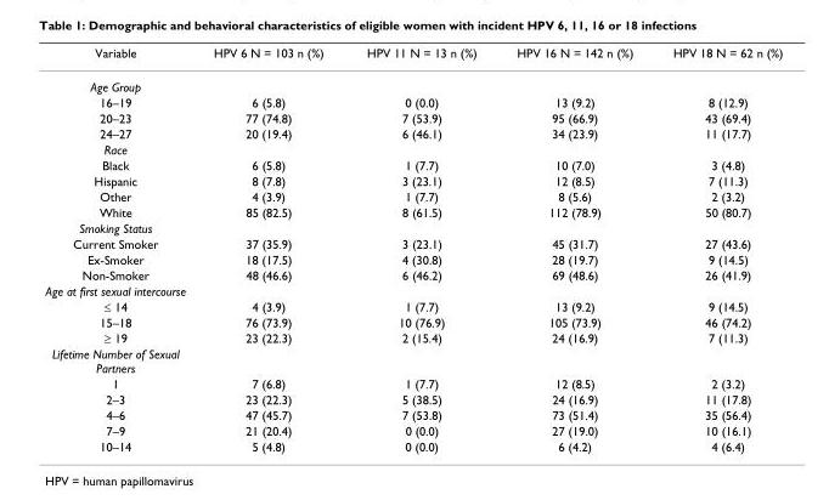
<table><thead><tr><td>Variable</td><td>HPV 6 N = 103 n (%)</td><td>HPV 11 N = 13 n (%)</td><td>HPV 16 N = 142 n (%)</td><td>HPV 18 N = 62 n (%)</td></tr></thead><tbody><tr><td colspan="5">Age Group</td></tr><tr><td>16–19</td><td>6 (5.8)</td><td>0 (0.0)</td><td>13 (9.2)</td><td>8 (12.9)</td></tr><tr><td>20–23</td><td>77 (74.8)</td><td>7 (53.9)</td><td>95 (66.9)</td><td>43 (69.4)</td></tr><tr><td>24–27</td><td>20 (19.4)</td><td>6 (46.1)</td><td>34 (23.9)</td><td>11 (17.7)</td></tr><tr><td colspan="5">Race</td></tr><tr><td>Black</td><td>6 (5.8)</td><td>1 (7.7)</td><td>10 (7.0)</td><td>3 (4.8)</td></tr><tr><td>Hispanic</td><td>8 (7.8)</td><td>3 (23.1)</td><td>12 (8.5)</td><td>7 (11.3)</td></tr><tr><td>Other</td><td>4 (3.9)</td><td>1 (7.7)</td><td>8 (5.6)</td><td>2 (3.2)</td></tr><tr><td>White</td><td>85 (82.5)</td><td>8 (61.5)</td><td>112 (78.9)</td><td>50 (80.7)</td></tr><tr><td colspan="5">Smoking Status</td></tr><tr><td>Current Smoker</td><td>37 (35.9)</td><td>3 (23.1)</td><td>45 (31.7)</td><td>27 (43.6)</td></tr><tr><td>Ex-Smoker</td><td>18 (17.5)</td><td>4 (30.8)</td><td>28 (19.7)</td><td>9 (14.5)</td></tr><tr><td>Non-Smoker</td><td>48 (46.6)</td><td>6 (46.2)</td><td>69 (48.6)</td><td>26 (41.9)</td></tr><tr><td colspan="5">Age at first sexual intercourse</td></tr><tr><td>≤ 14</td><td>4 (3.9)</td><td>1 (7.7)</td><td>13 (9.2)</td><td>9 (14.5)</td></tr><tr><td>15–18</td><td>76 (73.9)</td><td>10 (76.9)</td><td>105 (73.9)</td><td>46 (74.2)</td></tr><tr><td>≥ 19</td><td>23 (22.3)</td><td>2 (15.4)</td><td>24 (16.9)</td><td>7 (11.3)</td></tr><tr><td colspan="5">Lifetime Number of Sexual Partners</td></tr><tr><td>1</td><td>7 (6.8)</td><td>1 (7.7)</td><td>12 (8.5)</td><td>2 (3.2)</td></tr><tr><td>2–3</td><td>23 (22.3)</td><td>5 (38.5)</td><td>24 (16.9)</td><td>11 (17.8)</td></tr><tr><td>4–6</td><td>47 (45.7)</td><td>7 (53.8)</td><td>73 (51.4)</td><td>35 (56.4)</td></tr><tr><td>7–9</td><td>21 (20.4)</td><td>0 (0.0)</td><td>27 (19.0)</td><td>10 (16.1)</td></tr><tr><td>10–14</td><td>5 (4.8)</td><td>0 (0.0)</td><td>6 (4.2)</td><td>4 (6.4)</td></tr></tbody></table>